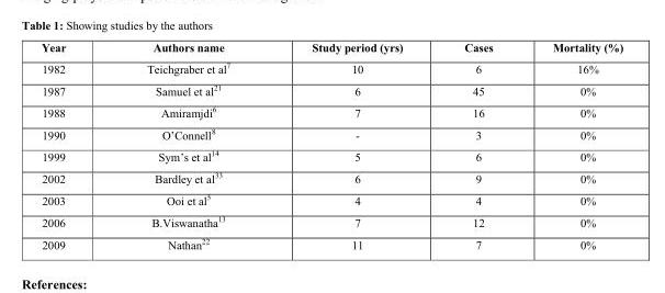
<table><thead><tr><td>Year</td><td>Authors name</td><td>Study period (yrs)</td><td>Cases</td><td>Mortality (%)</td></tr></thead><tbody><tr><td>1982</td><td>Teichgraber et al<sup>7</sup></td><td>10</td><td>6</td><td>16%</td></tr><tr><td>1987</td><td>Samuel et al<sup>21</sup></td><td>6</td><td>45</td><td>0%</td></tr><tr><td>1988</td><td>Amiramjdi<sup>6</sup></td><td>7</td><td>16</td><td>0%</td></tr><tr><td>1990</td><td>O’Connell<sup>8</sup></td><td>-</td><td>3</td><td>0%</td></tr><tr><td>1999</td><td>Sym’s et al<sup>14</sup></td><td>5</td><td>6</td><td>0%</td></tr><tr><td>2002</td><td>Bardley et al<sup>33</sup></td><td>6</td><td>9</td><td>0%</td></tr><tr><td>2003</td><td>Ooi et al<sup>5</sup></td><td>4</td><td>4</td><td>0%</td></tr><tr><td>2006</td><td>B.Viswanatha<sup>13</sup></td><td>7</td><td>12</td><td>0%</td></tr><tr><td>2009</td><td>Nathan<sup>22</sup></td><td>11</td><td>7</td><td>0%</td></tr></tbody></table>